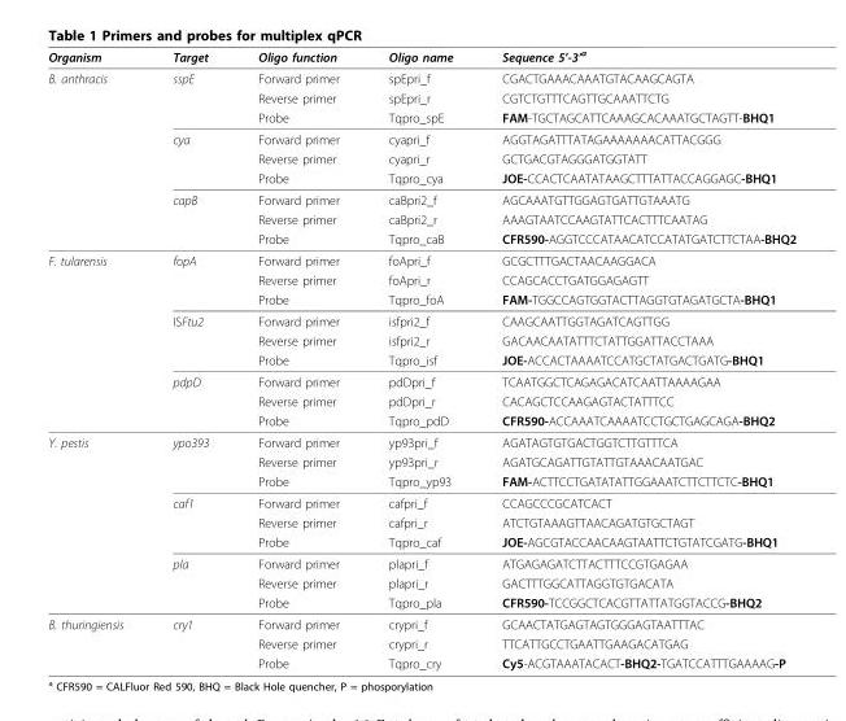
<table><thead><tr><td>Organism</td><td>Target</td><td>Oligo function</td><td>Oligo name</td><td>Sequence 5’-3’<sup>a</sup></td></tr></thead><tbody><tr><td rowspan="9">B. anthracis</td><td>sspE</td><td>Forward primer</td><td>spEpri_f</td><td>CGACTGAAACAAATGTACAAGCAGTA</td></tr><tr><td></td><td>Reverse primer</td><td>spEpri_r</td><td>CGTCTGTTTCAGTTGCAAATTCTG</td></tr><tr><td></td><td>Probe</td><td>Tqpro_spE</td><td>FAM-TGCTAGCATTCAAAGCACAAATGCTAGTT-BHQ1</td></tr><tr><td>cya</td><td>Forward primer</td><td>cyapri_f</td><td>AGGTAGATTTATAGAAAAAAACATTACGGG</td></tr><tr><td></td><td>Reverse primer</td><td>cyapri_r</td><td>GCTGACGTAGGGATGGTATT</td></tr><tr><td></td><td>Probe</td><td>Tqpro_cya</td><td>JOE-CCACTCAATATAAGCTTTATTACCAGGAGC-BHQ1</td></tr><tr><td>capB</td><td>Forward primer</td><td>caBpri2_f</td><td>AGCAAATGTTGGAGTGATTGTAAATG</td></tr><tr><td></td><td>Reverse primer</td><td>caBpri2_r</td><td>AAAGTAATCCAAGTATTCACTTTCAATAG</td></tr><tr><td></td><td>Probe</td><td>Tqpro_caB</td><td>CFR590-AGGTCCCATAACATCCATATGATCTTCTAA-BHQ2</td></tr><tr><td rowspan="9">F. tularensis</td><td>fopA</td><td>Forward primer</td><td>foApri_f</td><td>GCGCTTTGACTAACAAGGACA</td></tr><tr><td></td><td>Reverse primer</td><td>foApri_r</td><td>CCAGCACCTGATGGAGAGTT</td></tr><tr><td></td><td>Probe</td><td>Tqpro_foA</td><td>FAM-TGGCCAGTGGTACTTAGGTGTAGATGCTA-BHQ1</td></tr><tr><td>ISFtu2</td><td>Forward primer</td><td>isfpri2_f</td><td>CAAGCAATTGGTAGATCAGTTGG</td></tr><tr><td></td><td>Reverse primer</td><td>isfpri2_r</td><td>GACAACAATATTTCTATTGGATTACCTAAA</td></tr><tr><td></td><td>Probe</td><td>Tqpro_isf</td><td>JOE-ACCACTAAAATCCATGCTATGACTGATG-BHQ1</td></tr><tr><td>pdpD</td><td>Forward primer</td><td>pdDpri_f</td><td>TCAATGGCTCAGAGACATCAATTAAAAGAA</td></tr><tr><td></td><td>Reverse primer</td><td>pdDpri_r</td><td>CACAGCTCCAAGAGTACTATTTCC</td></tr><tr><td></td><td>Probe</td><td>Tqpro_pdD</td><td>CFR590-ACCAAATCAAAATCCTGCTGAGCAGA-BHQ2</td></tr><tr><td rowspan="9">Y. pestis</td><td>ypo393</td><td>Forward primer</td><td>yp93pri_f</td><td>AGATAGTGTGACTGGTCTTGTTTCA</td></tr><tr><td></td><td>Reverse primer</td><td>yp93pri_r</td><td>AGATGCAGATTGTATTGTAAACAATGAC</td></tr><tr><td></td><td>Probe</td><td>Tqpro_yp93</td><td>FAM-ACTTCCTGATATATTGGAAATCTTCTTCTC-BHQ1</td></tr><tr><td>caf1</td><td>Forward primer</td><td>cafpri_f</td><td>CCAGCCCGCATCACT</td></tr><tr><td></td><td>Reverse primer</td><td>cafpri_r</td><td>ATCTGTAAAGTTAACAGATGTGCTAGT</td></tr><tr><td></td><td>Probe</td><td>Tqpro_caf</td><td>JOE-AGCGTACCAACAAGTAATTCTGTATCGATG-BHQ1</td></tr><tr><td>pla</td><td>Forward primer</td><td>plapri_f</td><td>ATGAGAGATCTTACTTTCCGTGAGAA</td></tr><tr><td></td><td>Reverse primer</td><td>plapri_r</td><td>GACTTTGGCATTAGGTGTGACATA</td></tr><tr><td></td><td>Probe</td><td>Tqpro_pla</td><td>CFR590-TCCGGCTCACGTTATTATGGTACCG-BHQ2</td></tr><tr><td rowspan="3">B. thuringiensis</td><td>cry1</td><td>Forward primer</td><td>crypri_f</td><td>GCAACTATGAGTAGTGGGAGTAATTTAC</td></tr><tr><td></td><td>Reverse primer</td><td>crypri_r</td><td>TTCATTGCCTGAATTGAAGACATGAG</td></tr><tr><td></td><td>Probe</td><td>Tqpro_cry</td><td>Cy5-ACGTAAATACACT-BHQ2-TGATCCATTTGAAAAG-P</td></tr></tbody></table>